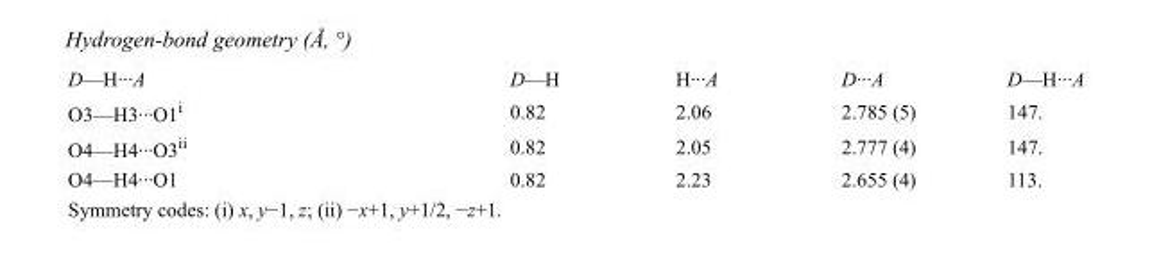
<table><tbody><tr><td>D—H···A</td><td>D—H</td><td>H···A</td><td>D···A</td><td>D—H···A</td></tr><tr><td>O3—H3···O1<sup>i</sup></td><td>0.82</td><td>2.06</td><td>2.785 (5)</td><td>147.</td></tr><tr><td>O4—H4···O3<sup>ii</sup></td><td>0.82</td><td>2.05</td><td>2.777 (4)</td><td>147.</td></tr><tr><td>O4—H4···O1</td><td>0.82</td><td>2.23</td><td>2.655 (4)</td><td>113.</td></tr></tbody></table>